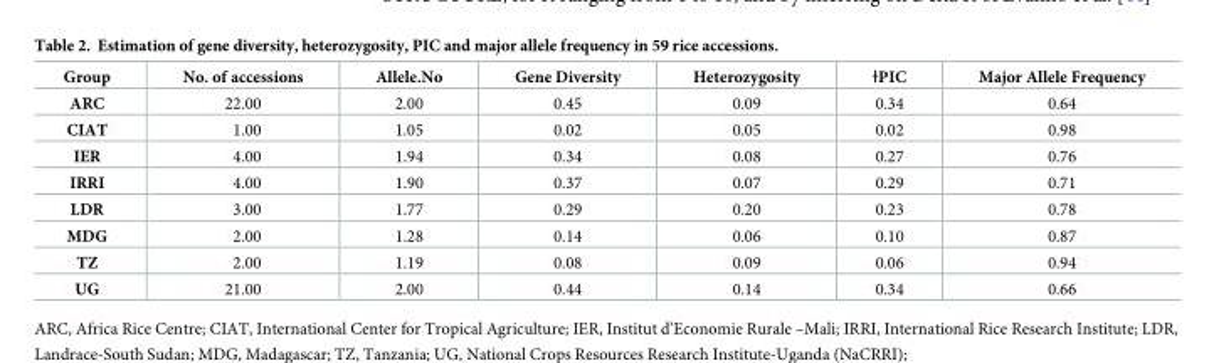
<table><thead><tr><td>Group</td><td>No. of accessions</td><td>Allele.No</td><td>Gene Diversity</td><td>Heterozygosity</td><td>ƗPIC</td><td>Major Allele Frequency</td></tr></thead><tbody><tr><td>ARC</td><td>22.00</td><td>2.00</td><td>0.45</td><td>0.09</td><td>0.34</td><td>0.64</td></tr><tr><td>CIAT</td><td>1.00</td><td>1.05</td><td>0.02</td><td>0.05</td><td>0.02</td><td>0.98</td></tr><tr><td>IER</td><td>4.00</td><td>1.94</td><td>0.34</td><td>0.08</td><td>0.27</td><td>0.76</td></tr><tr><td>IRRI</td><td>4.00</td><td>1.90</td><td>0.37</td><td>0.07</td><td>0.29</td><td>0.71</td></tr><tr><td>LDR</td><td>3.00</td><td>1.77</td><td>0.29</td><td>0.20</td><td>0.23</td><td>0.78</td></tr><tr><td>MDG</td><td>2.00</td><td>1.28</td><td>0.14</td><td>0.06</td><td>0.10</td><td>0.87</td></tr><tr><td>TZ</td><td>2.00</td><td>1.19</td><td>0.08</td><td>0.09</td><td>0.06</td><td>0.94</td></tr><tr><td>UG</td><td>21.00</td><td>2.00</td><td>0.44</td><td>0.14</td><td>0.34</td><td>0.66</td></tr></tbody></table>